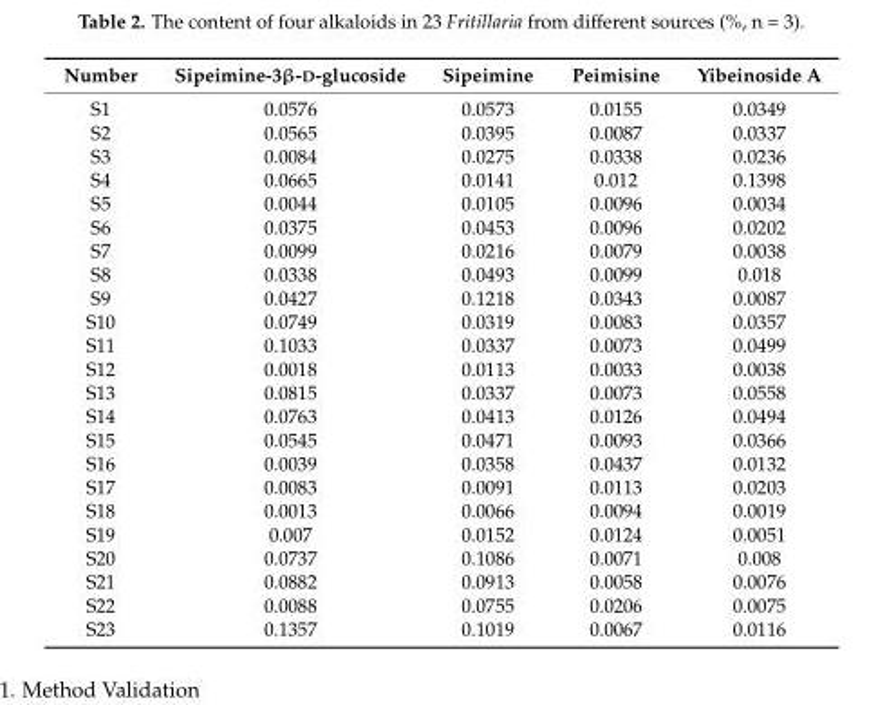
<table><thead><tr><td>Number</td><td>Sipeimine-3β-D-glucoside</td><td>Sipeimine</td><td>Peimisine</td><td>Yibeinoside A</td></tr></thead><tbody><tr><td>S1</td><td>0.0576</td><td>0.0573</td><td>0.0155</td><td>0.0349</td></tr><tr><td>S2</td><td>0.0565</td><td>0.0395</td><td>0.0087</td><td>0.0337</td></tr><tr><td>S3</td><td>0.0084</td><td>0.0275</td><td>0.0338</td><td>0.0236</td></tr><tr><td>S4</td><td>0.0665</td><td>0.0141</td><td>0.012</td><td>0.1398</td></tr><tr><td>S5</td><td>0.0044</td><td>0.0105</td><td>0.0096</td><td>0.0034</td></tr><tr><td>S6</td><td>0.0375</td><td>0.0453</td><td>0.0096</td><td>0.0202</td></tr><tr><td>S7</td><td>0.0099</td><td>0.0216</td><td>0.0079</td><td>0.0038</td></tr><tr><td>S8</td><td>0.0338</td><td>0.0493</td><td>0.0099</td><td>0.018</td></tr><tr><td>S9</td><td>0.0427</td><td>0.1218</td><td>0.0343</td><td>0.0087</td></tr><tr><td>S10</td><td>0.0749</td><td>0.0319</td><td>0.0083</td><td>0.0357</td></tr><tr><td>S11</td><td>0.1033</td><td>0.0337</td><td>0.0073</td><td>0.0499</td></tr><tr><td>S12</td><td>0.0018</td><td>0.0113</td><td>0.0033</td><td>0.0038</td></tr><tr><td>S13</td><td>0.0815</td><td>0.0337</td><td>0.0073</td><td>0.0558</td></tr><tr><td>S14</td><td>0.0763</td><td>0.0413</td><td>0.0126</td><td>0.0494</td></tr><tr><td>S15</td><td>0.0545</td><td>0.0471</td><td>0.0093</td><td>0.0366</td></tr><tr><td>S16</td><td>0.0039</td><td>0.0358</td><td>0.0437</td><td>0.0132</td></tr><tr><td>S17</td><td>0.0083</td><td>0.0091</td><td>0.0113</td><td>0.0203</td></tr><tr><td>S18</td><td>0.0013</td><td>0.0066</td><td>0.0094</td><td>0.0019</td></tr><tr><td>S19</td><td>0.007</td><td>0.0152</td><td>0.0124</td><td>0.0051</td></tr><tr><td>S20</td><td>0.0737</td><td>0.1086</td><td>0.0071</td><td>0.008</td></tr><tr><td>S21</td><td>0.0882</td><td>0.0913</td><td>0.0058</td><td>0.0076</td></tr><tr><td>S22</td><td>0.0088</td><td>0.0755</td><td>0.0206</td><td>0.0075</td></tr><tr><td>S23</td><td>0.1357</td><td>0.1019</td><td>0.0067</td><td>0.0116</td></tr></tbody></table>